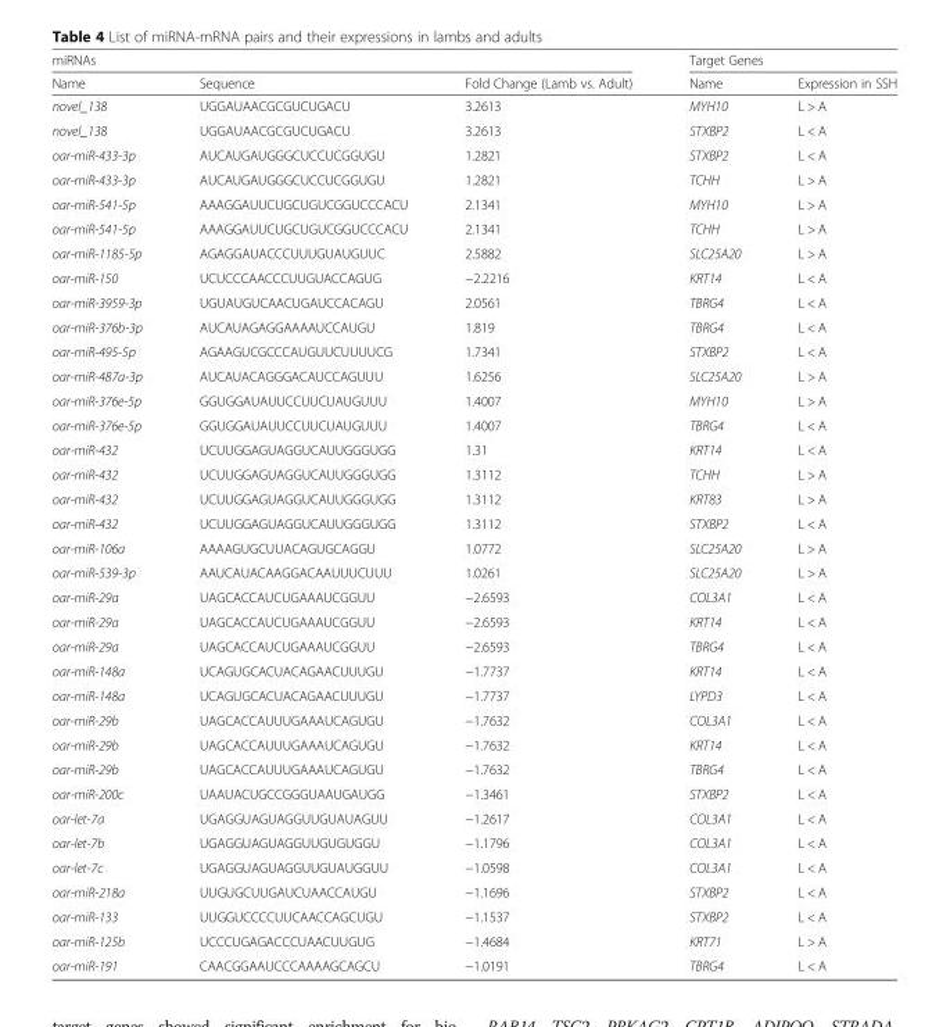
<table><thead><tr><td colspan="3">miRNAs</td><td colspan="2">Target Genes</td></tr><tr><td>Name</td><td>Sequence</td><td>Fold Change (Lamb vs. Adult)</td><td>Name</td><td>Expression in SSH</td></tr></thead><tbody><tr><td>novel_138</td><td>UGGAUAACGCGUCUGACU</td><td>3.2613</td><td>MYH10</td><td>L &gt; A</td></tr><tr><td>novel_138</td><td>UGGAUAACGCGUCUGACU</td><td>3.2613</td><td>STXBP2</td><td>L &lt; A</td></tr><tr><td>oar-miR-433-3p</td><td>AUCAUGAUGGGCUCCUCGGUGU</td><td>1.2821</td><td>STXBP2</td><td>L &lt; A</td></tr><tr><td>oar-miR-433-3p</td><td>AUCAUGAUGGGCUCCUCGGUGU</td><td>1.2821</td><td>TCHH</td><td>L &gt; A</td></tr><tr><td>oar-miR-541-5p</td><td>AAAGGAUUCUGCUGUCGGUCCCACU</td><td>2.1341</td><td>MYH10</td><td>L &gt; A</td></tr><tr><td>oar-miR-541-5p</td><td>AAAGGAUUCUGCUGUCGGUCCCACU</td><td>2.1341</td><td>TCHH</td><td>L &gt; A</td></tr><tr><td>oar-miR-1185-5p</td><td>AGAGGAUACCCUUUGUAUGUUC</td><td>2.5882</td><td>SLC25A20</td><td>L &gt; A</td></tr><tr><td>oar-miR-150</td><td>UCUCCCAACCCUUGUACCAGUG</td><td>−2.2216</td><td>KRT14</td><td>L &lt; A</td></tr><tr><td>oar-miR-3959-3p</td><td>UGUAUGUCAACUGAUCCACAGU</td><td>2.0561</td><td>TBRG4</td><td>L &lt; A</td></tr><tr><td>oar-miR-376b-3p</td><td>AUCAUAGAGGAAAAUCCAUGU</td><td>1.819</td><td>TBRG4</td><td>L &lt; A</td></tr><tr><td>oar-miR-495-5p</td><td>AGAAGUCGCCCAUGUUCUUUUCG</td><td>1.7341</td><td>STXBP2</td><td>L &lt; A</td></tr><tr><td>oar-miR-487a-3p</td><td>AUCAUACAGGGACAUCCAGUUU</td><td>1.6256</td><td>SLC25A20</td><td>L &gt; A</td></tr><tr><td>oar-miR-376e-5p</td><td>GGUGGAUAUUCCUUCUAUGUUU</td><td>1.4007</td><td>MYH10</td><td>L &gt; A</td></tr><tr><td>oar-miR-376e-5p</td><td>GGUGGAUAUUCCUUCUAUGUUU</td><td>1.4007</td><td>TBRG4</td><td>L &lt; A</td></tr><tr><td>oar-miR-432</td><td>UCUUGGAGUAGGUCAUUGGGUGG</td><td>1.31</td><td>KRT14</td><td>L &lt; A</td></tr><tr><td>oar-miR-432</td><td>UCUUGGAGUAGGUCAUUGGGUGG</td><td>1.3112</td><td>TCHH</td><td>L &gt; A</td></tr><tr><td>oar-miR-432</td><td>UCUUGGAGUAGGUCAUUGGGUGG</td><td>1.3112</td><td>KRT83</td><td>L &gt; A</td></tr><tr><td>oar-miR-432</td><td>UCUUGGAGUAGGUCAUUGGGUGG</td><td>1.3112</td><td>STXBP2</td><td>L &lt; A</td></tr><tr><td>oar-miR-106a</td><td>AAAAGUGCUUACAGUGCAGGU</td><td>1.0772</td><td>SLC25A20</td><td>L &gt; A</td></tr><tr><td>oar-miR-539-3p</td><td>AAUCAUACAAGGACAAUUUCUUU</td><td>1.0261</td><td>SLC25A20</td><td>L &gt; A</td></tr><tr><td>oar-miR-29a</td><td>UAGCACCAUCUGAAAUCGGUU</td><td>−2.6593</td><td>COL3A1</td><td>L &lt; A</td></tr><tr><td>oar-miR-29a</td><td>UAGCACCAUCUGAAAUCGGUU</td><td>−2.6593</td><td>KRT14</td><td>L &lt; A</td></tr><tr><td>oar-miR-29a</td><td>UAGCACCAUCUGAAAUCGGUU</td><td>−2.6593</td><td>TBRG4</td><td>L &lt; A</td></tr><tr><td>oar-miR-148a</td><td>UCAGUGCACUACAGAACUUUGU</td><td>−1.7737</td><td>KRT14</td><td>L &lt; A</td></tr><tr><td>oar-miR-148a</td><td>UCAGUGCACUACAGAACUUUGU</td><td>−1.7737</td><td>LYPD3</td><td>L &lt; A</td></tr><tr><td>oar-miR-29b</td><td>UAGCACCAUUUGAAAUCAGUGU</td><td>−1.7632</td><td>COL3A1</td><td>L &lt; A</td></tr><tr><td>oar-miR-29b</td><td>UAGCACCAUUUGAAAUCAGUGU</td><td>−1.7632</td><td>KRT14</td><td>L &lt; A</td></tr><tr><td>oar-miR-29b</td><td>UAGCACCAUUUGAAAUCAGUGU</td><td>−1.7632</td><td>TBRG4</td><td>L &lt; A</td></tr><tr><td>oar-miR-200c</td><td>UAAUACUGCCGGGUAAUGAUGG</td><td>−1.3461</td><td>STXBP2</td><td>L &lt; A</td></tr><tr><td>oar-let-7a</td><td>UGAGGUAGUAGGUUGUAUAGUU</td><td>−1.2617</td><td>COL3A1</td><td>L &lt; A</td></tr><tr><td>oar-let-7b</td><td>UGAGGUAGUAGGUUGUGUGGU</td><td>−1.1796</td><td>COL3A1</td><td>L &lt; A</td></tr><tr><td>oar-let-7c</td><td>UGAGGUAGUAGGUUGUAUGGUU</td><td>−1.0598</td><td>COL3A1</td><td>L &lt; A</td></tr><tr><td>oar-miR-218a</td><td>UUGUGCUUGAUCUAACCAUGU</td><td>−1.1696</td><td>STXBP2</td><td>L &lt; A</td></tr><tr><td>oar-miR-133</td><td>UUGGUCCCCUUCAACCAGCUGU</td><td>−1.1537</td><td>STXBP2</td><td>L &lt; A</td></tr><tr><td>oar-miR-125b</td><td>UCCCUGAGACCCUAACUUGUG</td><td>−1.4684</td><td>KRT71</td><td>L &gt; A</td></tr><tr><td>oar-miR-191</td><td>CAACGGAAUCCCAAAAGCAGCU</td><td>−1.0191</td><td>TBRG4</td><td>L &lt; A</td></tr></tbody></table>